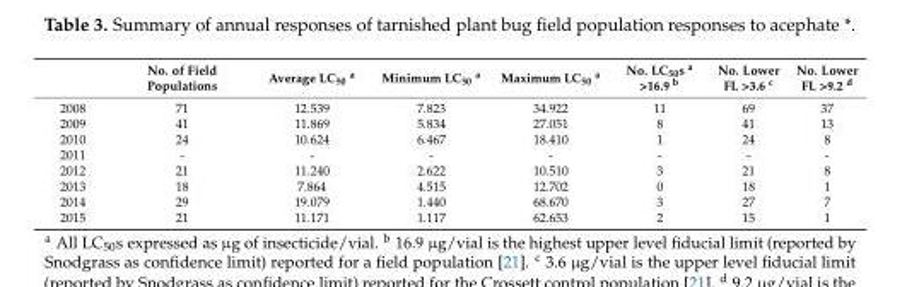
<table><thead><tr><td></td><td>No. of Field Populations</td><td>Average LC<sub>50</sub> <sup>a</sup></td><td>Minimum LC<sub>50</sub> <sup>a</sup></td><td>Maximum LC<sub>50</sub> <sup>a</sup></td><td>No. LC<sub>50</sub>s <sup>a</sup> &gt;16.9 <sup>b</sup></td><td>No. Lower FL &gt;3.6 <sup>c</sup></td><td>No. Lower FL &gt;9.2 <sup>d</sup></td></tr></thead><tbody><tr><td>2008</td><td>71</td><td>12.539</td><td>7.823</td><td>34.922</td><td>11</td><td>69</td><td>37</td></tr><tr><td>2009</td><td>41</td><td>11.869</td><td>5.834</td><td>27.051</td><td>8</td><td>41</td><td>13</td></tr><tr><td>2010</td><td>24</td><td>10.624</td><td>6.467</td><td>18.410</td><td>1</td><td>24</td><td>8</td></tr><tr><td>2011</td><td>-</td><td>-</td><td>-</td><td>-</td><td>-</td><td>-</td><td>-</td></tr><tr><td>2012</td><td>21</td><td>11.240</td><td>2.622</td><td>10.510</td><td>3</td><td>21</td><td>8</td></tr><tr><td>2013</td><td>18</td><td>7.864</td><td>4.515</td><td>12.702</td><td>0</td><td>18</td><td>1</td></tr><tr><td>2014</td><td>29</td><td>19.079</td><td>1.440</td><td>68.670</td><td>3</td><td>27</td><td>7</td></tr><tr><td>2015</td><td>21</td><td>11.171</td><td>1.117</td><td>62.653</td><td>2</td><td>15</td><td>1</td></tr></tbody></table>